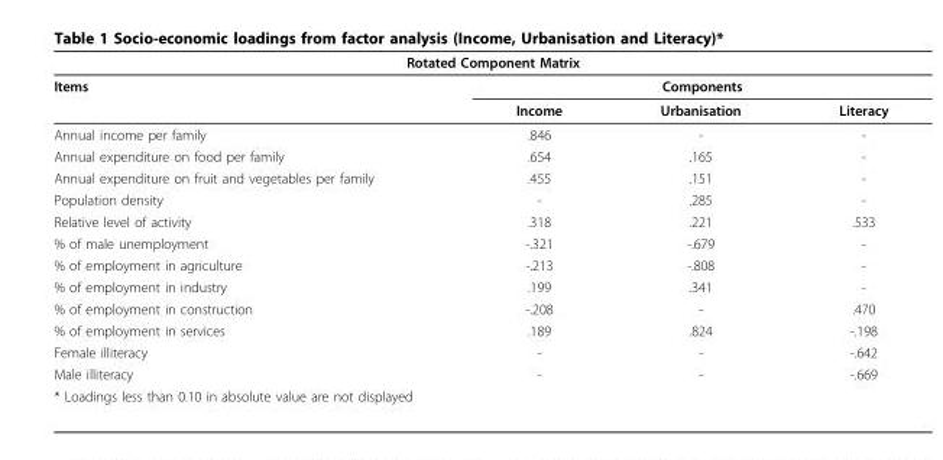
<table><thead><tr><td colspan="4">Rotated Component Matrix</td></tr><tr><td rowspan="2">Items</td><td colspan="3">Components</td></tr><tr><td>Income</td><td>Urbanisation</td><td>Literacy</td></tr></thead><tbody><tr><td>Annual income per family</td><td>.846</td><td>-</td><td>-</td></tr><tr><td>Annual expenditure on food per family</td><td>.654</td><td>.165</td><td>-</td></tr><tr><td>Annual expenditure on fruit and vegetables per family</td><td>.455</td><td>.151</td><td>-</td></tr><tr><td>Population density</td><td>-</td><td>.285</td><td>-</td></tr><tr><td>Relative level of activity</td><td>.318</td><td>.221</td><td>.533</td></tr><tr><td>% of male unemployment</td><td>-.321</td><td>-.679</td><td>-</td></tr><tr><td>% of employment in agriculture</td><td>-.213</td><td>-.808</td><td>-</td></tr><tr><td>% of employment in industry</td><td>.199</td><td>.341</td><td>-</td></tr><tr><td>% of employment in construction</td><td>-.208</td><td>-</td><td>.470</td></tr><tr><td>% of employment in services</td><td>.189</td><td>.824</td><td>-.198</td></tr><tr><td>Female illiteracy</td><td>-</td><td>-</td><td>-.642</td></tr><tr><td>Male illiteracy</td><td>-</td><td>-</td><td>-.669</td></tr><tr><td colspan="2">* Loadings less than 0.10 in absolute value are not displayed</td><td></td><td></td></tr></tbody></table>